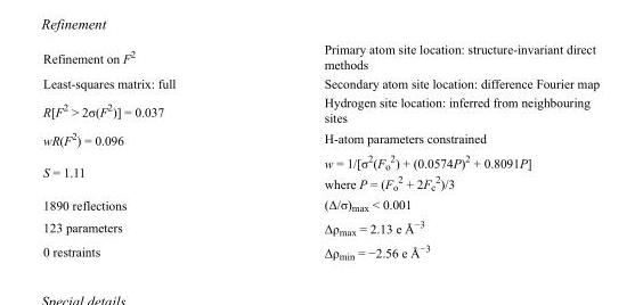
<table><tbody><tr><td>Refinement on F<sup>2</sup></td><td>Primary atom site location: structure-invariant direct methods</td></tr><tr><td>Least-squares matrix: full</td><td>Secondary atom site location: difference Fourier map</td></tr><tr><td>R[F<sup>2</sup> &gt; 2σ(F<sup>2</sup>)] = 0.037</td><td>Hydrogen site location: inferred from neighbouring sites</td></tr><tr><td>wR(F<sup>2</sup>) = 0.096</td><td>H-atom parameters constrained</td></tr><tr><td>S = 1.11</td><td>w = 1/[σ<sup>2</sup>(F<sub>o</sub> <sup>2</sup>) + (0.0574P)<sup>2</sup> + 0.8091P] where P = (F<sub>o</sub> <sup>2</sup> + 2F<sub>c</sub> <sup>2</sup>)/3</td></tr><tr><td>1890 reflections</td><td>(Δ/σ)<sub>max</sub> &lt; 0.001</td></tr><tr><td>123 parameters</td><td>Δρ<sub>max</sub> = 2.13 e Å<sup>−3</sup></td></tr><tr><td>0 restraints</td><td>Δρ<sub>min</sub> = −2.56 e Å<sup>−3</sup></td></tr></tbody></table>